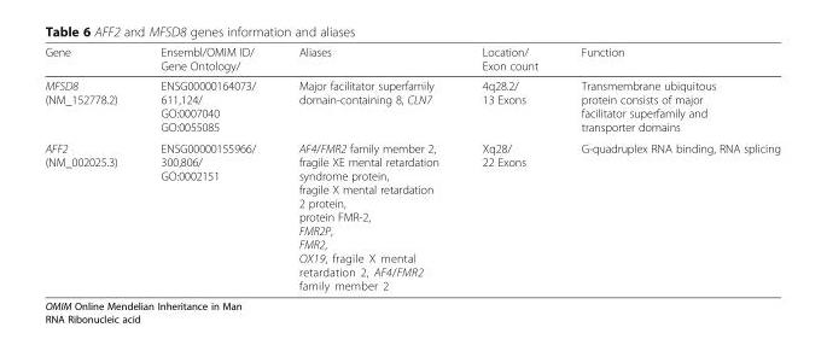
<table><thead><tr><td>Gene</td><td>Ensembl/OMIM ID/ Gene Ontology/</td><td>Aliases</td><td>Location/ Exon count</td><td>Function</td></tr></thead><tbody><tr><td>MFSD8 (NM_152778.2)</td><td>ENSG00000164073/ 611,124/ GO:0007040 GO:0055085</td><td>Major facilitator superfamily domain-containing 8, CLN7</td><td>4q28.2/ 13 Exons</td><td>Transmembrane ubiquitous protein consists of major facilitator superfamily and transporter domains</td></tr><tr><td>AFF2 (NM_002025.3)</td><td>ENSG00000155966/ 300,806/ GO:0002151</td><td>AF4/FMR2 family member 2, fragile XE mental retardation syndrome protein, fragile X mental retardation 2 protein, protein FMR-2, FMR2P, FMR2, OX19, fragile X mental retardation 2, AF4/FMR2 family member 2</td><td>Xq28/ 22 Exons</td><td>G-quadruplex RNA binding, RNA splicing</td></tr></tbody></table>